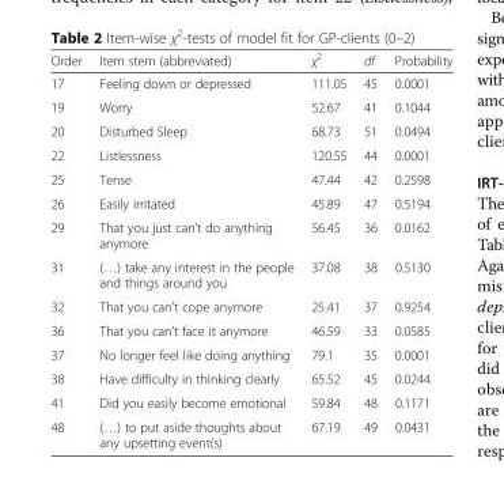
<table><thead><tr><td>Order</td><td>Item stem (abbreviated)</td><td>χ<sup>2</sup></td><td>df</td><td>Probability</td></tr></thead><tbody><tr><td>17</td><td>Feeling down or depressed</td><td>111.05</td><td>45</td><td>0.0001</td></tr><tr><td>19</td><td>Worry</td><td>52.67</td><td>41</td><td>0.1044</td></tr><tr><td>20</td><td>Disturbed Sleep</td><td>68.73</td><td>51</td><td>0.0494</td></tr><tr><td>22</td><td>Listlessness</td><td>120.55</td><td>44</td><td>0.0001</td></tr><tr><td>25</td><td>Tense</td><td>47.44</td><td>42</td><td>0.2598</td></tr><tr><td>26</td><td>Easily irritated</td><td>45.89</td><td>47</td><td>0.5194</td></tr><tr><td>29</td><td>That you just can’t do anything anymore</td><td>56.45</td><td>36</td><td>0.0162</td></tr><tr><td>31</td><td>(…) take any interest in the people and things around you</td><td>37.08</td><td>38</td><td>0.5130</td></tr><tr><td>32</td><td>That you can’t cope anymore</td><td>25.41</td><td>37</td><td>0.9254</td></tr><tr><td>36</td><td>That you can’t face it anymore</td><td>46.59</td><td>33</td><td>0.0585</td></tr><tr><td>37</td><td>No longer feel like doing anything</td><td>79.1</td><td>35</td><td>0.0001</td></tr><tr><td>38</td><td>Have difficulty in thinking clearly</td><td>65.52</td><td>45</td><td>0.0244</td></tr><tr><td>41</td><td>Did you easily become emotional</td><td>59.84</td><td>48</td><td>0.1171</td></tr><tr><td>48</td><td>(…) to put aside thoughts about any upsetting event(s)</td><td>67.19</td><td>49</td><td>0.0431</td></tr></tbody></table>